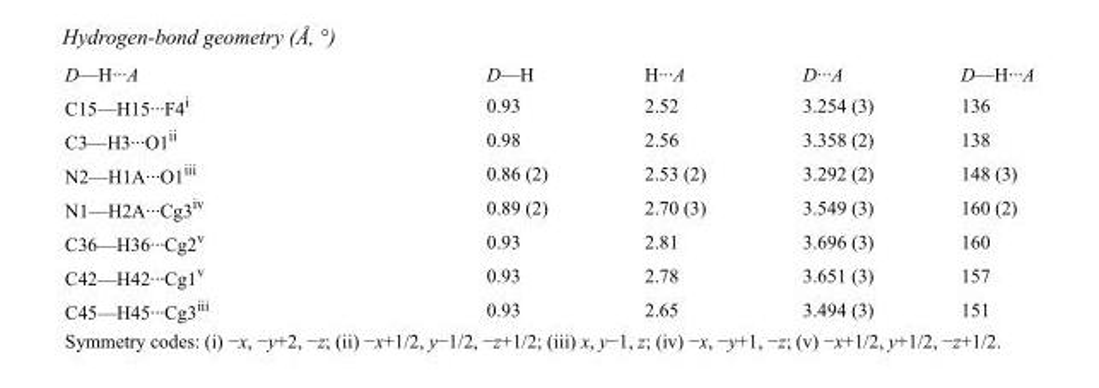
<table><tbody><tr><td>D—H···A</td><td>D—H</td><td>H···A</td><td>D···A</td><td>D—H···A</td></tr><tr><td>C15—H15···F4<sup>i</sup></td><td>0.93</td><td>2.52</td><td>3.254 (3)</td><td>136</td></tr><tr><td>C3—H3···O1<sup>ii</sup></td><td>0.98</td><td>2.56</td><td>3.358 (2)</td><td>138</td></tr><tr><td>N2—H1A···O1<sup>iii</sup></td><td>0.86 (2)</td><td>2.53 (2)</td><td>3.292 (2)</td><td>148 (3)</td></tr><tr><td>N1—H2A···Cg3<sup>iv</sup></td><td>0.89 (2)</td><td>2.70 (3)</td><td>3.549 (3)</td><td>160 (2)</td></tr><tr><td>C36—H36···Cg2<sup>v</sup></td><td>0.93</td><td>2.81</td><td>3.696 (3)</td><td>160</td></tr><tr><td>C42—H42···Cg1<sup>v</sup></td><td>0.93</td><td>2.78</td><td>3.651 (3)</td><td>157</td></tr><tr><td>C45—H45···Cg3<sup>iii</sup></td><td>0.93</td><td>2.65</td><td>3.494 (3)</td><td>151</td></tr></tbody></table>